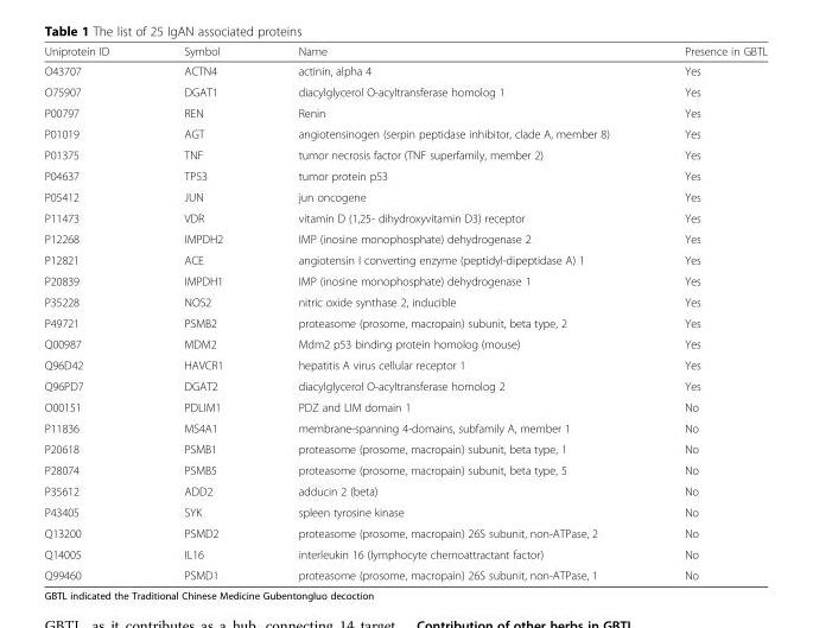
<table><thead><tr><td>Uniprotein ID</td><td>Symbol</td><td>Name</td><td>Presence in GBTL</td></tr></thead><tbody><tr><td>O43707</td><td>ACTN4</td><td>actinin, alpha 4</td><td>Yes</td></tr><tr><td>O75907</td><td>DGAT1</td><td>diacylglycerol O-acyltransferase homolog 1</td><td>Yes</td></tr><tr><td>P00797</td><td>REN</td><td>Renin</td><td>Yes</td></tr><tr><td>P01019</td><td>AGT</td><td>angiotensinogen (serpin peptidase inhibitor, clade A, member 8)</td><td>Yes</td></tr><tr><td>P01375</td><td>TNF</td><td>tumor necrosis factor (TNF superfamily, member 2)</td><td>Yes</td></tr><tr><td>P04637</td><td>TP53</td><td>tumor protein p53</td><td>Yes</td></tr><tr><td>P05412</td><td>JUN</td><td>jun oncogene</td><td>Yes</td></tr><tr><td>P11473</td><td>VDR</td><td>vitamin D (1,25- dihydroxyvitamin D3) receptor</td><td>Yes</td></tr><tr><td>P12268</td><td>IMPDH2</td><td>IMP (inosine monophosphate) dehydrogenase 2</td><td>Yes</td></tr><tr><td>P12821</td><td>ACE</td><td>angiotensin I converting enzyme (peptidyl-dipeptidase A) 1</td><td>Yes</td></tr><tr><td>P20839</td><td>IMPDH1</td><td>IMP (inosine monophosphate) dehydrogenase 1</td><td>Yes</td></tr><tr><td>P35228</td><td>NOS2</td><td>nitric oxide synthase 2, inducible</td><td>Yes</td></tr><tr><td>P49721</td><td>PSMB2</td><td>proteasome (prosome, macropain) subunit, beta type, 2</td><td>Yes</td></tr><tr><td>Q00987</td><td>MDM2</td><td>Mdm2 p53 binding protein homolog (mouse)</td><td>Yes</td></tr><tr><td>Q96D42</td><td>HAVCR1</td><td>hepatitis A virus cellular receptor 1</td><td>Yes</td></tr><tr><td>Q96PD7</td><td>DGAT2</td><td>diacylglycerol O-acyltransferase homolog 2</td><td>Yes</td></tr><tr><td>O00151</td><td>PDLIM1</td><td>PDZ and LIM domain 1</td><td>No</td></tr><tr><td>P11836</td><td>MS4A1</td><td>membrane-spanning 4-domains, subfamily A, member 1</td><td>No</td></tr><tr><td>P20618</td><td>PSMB1</td><td>proteasome (prosome, macropain) subunit, beta type, 1</td><td>No</td></tr><tr><td>P28074</td><td>PSMB5</td><td>proteasome (prosome, macropain) subunit, beta type, 5</td><td>No</td></tr><tr><td>P35612</td><td>ADD2</td><td>adducin 2 (beta)</td><td>No</td></tr><tr><td>P43405</td><td>SYK</td><td>spleen tyrosine kinase</td><td>No</td></tr><tr><td>Q13200</td><td>PSMD2</td><td>proteasome (prosome, macropain) 26S subunit, non-ATPase, 2</td><td>No</td></tr><tr><td>Q14005</td><td>IL16</td><td>interleukin 16 (lymphocyte chemoattractant factor)</td><td>No</td></tr><tr><td>Q99460</td><td>PSMD1</td><td>proteasome (prosome, macropain) 26S subunit, non-ATPase, 1</td><td>No</td></tr></tbody></table>